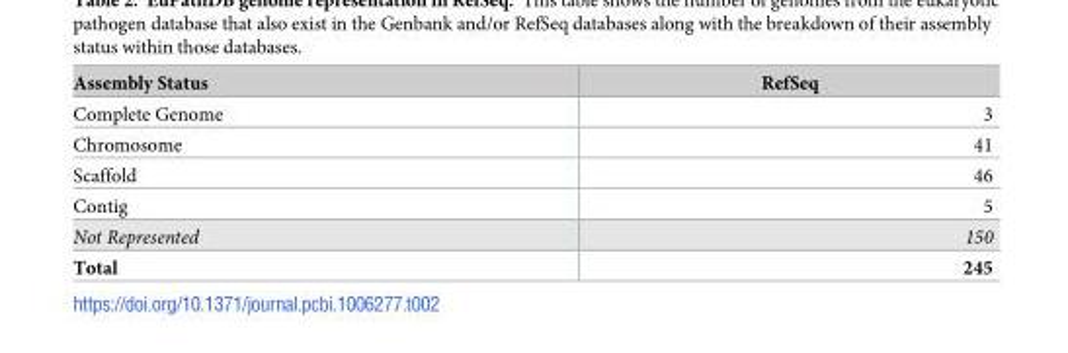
<table><thead><tr><td>Assembly Status</td><td>RefSeq</td></tr></thead><tbody><tr><td>Complete Genome</td><td>3</td></tr><tr><td>Chromosome</td><td>41</td></tr><tr><td>Scaffold</td><td>46</td></tr><tr><td>Contig</td><td>5</td></tr><tr><td>Not Represented</td><td>150</td></tr><tr><td>Total</td><td>245</td></tr></tbody></table>